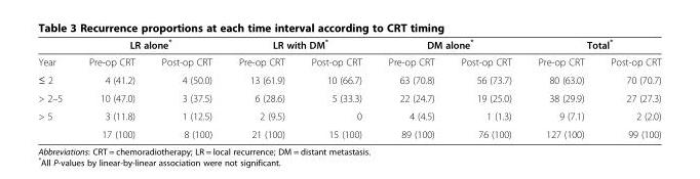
<table><thead><tr><td rowspan="2">Year</td><td colspan="2">LR alone*</td><td colspan="2">LR with DM*</td><td colspan="2">DM alone*</td><td colspan="2">Total*</td></tr><tr><td>Pre-op CRT</td><td>Post-op CRT</td><td>Pre-op CRT</td><td>Post-op CRT</td><td>Pre-op CRT</td><td>Post-op CRT</td><td>Pre-op CRT</td><td>Post-op CRT</td></tr></thead><tbody><tr><td>≤ 2</td><td>4 (41.2)</td><td>4 (50.0)</td><td>13 (61.9)</td><td>10 (66.7)</td><td>63 (70.8)</td><td>56 (73.7)</td><td>80 (63.0)</td><td>70 (70.7)</td></tr><tr><td>&gt; 2–5</td><td>10 (47.0)</td><td>3 (37.5)</td><td>6 (28.6)</td><td>5 (33.3)</td><td>22 (24.7)</td><td>19 (25.0)</td><td>38 (29.9)</td><td>27 (27.3)</td></tr><tr><td rowspan="2">&gt; 5</td><td>3 (11.8)</td><td>1 (12.5)</td><td>2 (9.5)</td><td>0</td><td>4 (4.5)</td><td>1 (1.3)</td><td>9 (7.1)</td><td>2 (2.0)</td></tr><tr><td>17 (100)</td><td>8 (100)</td><td>21 (100)</td><td>15 (100)</td><td>89 (100)</td><td>76 (100)</td><td>127 (100)</td><td>99 (100)</td></tr></tbody></table>